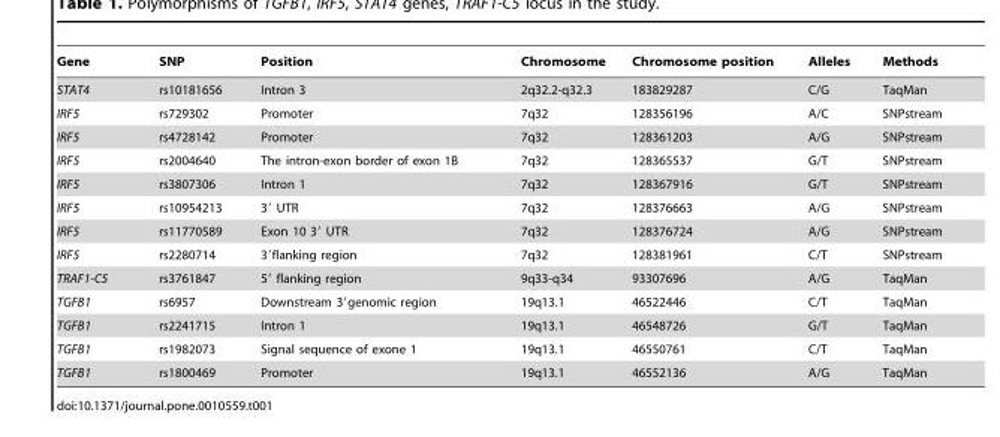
<table><thead><tr><td>Gene</td><td>SNP</td><td>Position</td><td>Chromosome</td><td>Chromosome position</td><td>Alleles</td><td>Methods</td></tr></thead><tbody><tr><td>STAT4</td><td>rs10181656</td><td>Intron 3</td><td>2q32.2-q32.3</td><td>183829287</td><td>C/G</td><td>TaqMan</td></tr><tr><td>IRF5</td><td>rs729302</td><td>Promoter</td><td>7q32</td><td>128356196</td><td>A/C</td><td>SNPstream</td></tr><tr><td>IRF5</td><td>rs4728142</td><td>Promoter</td><td>7q32</td><td>128361203</td><td>A/G</td><td>SNPstream</td></tr><tr><td>IRF5</td><td>rs2004640</td><td>The intron-exon border of exon 1B</td><td>7q32</td><td>128365537</td><td>G/T</td><td>SNPstream</td></tr><tr><td>IRF5</td><td>rs3807306</td><td>Intron 1</td><td>7q32</td><td>128367916</td><td>G/T</td><td>SNPstream</td></tr><tr><td>IRF5</td><td>rs10954213</td><td>3′ UTR</td><td>7q32</td><td>128376663</td><td>A/G</td><td>SNPstream</td></tr><tr><td>IRF5</td><td>rs11770589</td><td>Exon 10 3′ UTR</td><td>7q32</td><td>128376724</td><td>A/G</td><td>SNPstream</td></tr><tr><td>IRF5</td><td>rs2280714</td><td>3′flanking region</td><td>7q32</td><td>128381961</td><td>C/T</td><td>SNPstream</td></tr><tr><td>TRAF1-C5</td><td>rs3761847</td><td>5′ flanking region</td><td>9q33-q34</td><td>93307696</td><td>A/G</td><td>TaqMan</td></tr><tr><td>TGFB1</td><td>rs6957</td><td>Downstream 3′genomic region</td><td>19q13.1</td><td>46522446</td><td>C/T</td><td>TaqMan</td></tr><tr><td>TGFB1</td><td>rs2241715</td><td>Intron 1</td><td>19q13.1</td><td>46548726</td><td>G/T</td><td>TaqMan</td></tr><tr><td>TGFB1</td><td>rs1982073</td><td>Signal sequence of exone 1</td><td>19q13.1</td><td>46550761</td><td>C/T</td><td>TaqMan</td></tr><tr><td>TGFB1</td><td>rs1800469</td><td>Promoter</td><td>19q13.1</td><td>46552136</td><td>A/G</td><td>TaqMan</td></tr></tbody></table>